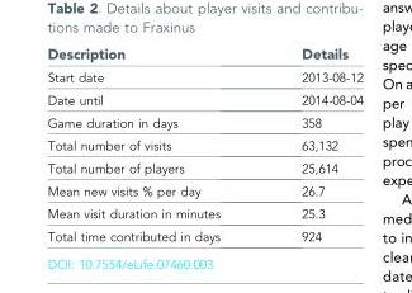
<table><thead><tr><td>Description</td><td>Details</td></tr></thead><tbody><tr><td>Start date</td><td>2013-08-12</td></tr><tr><td>Date until</td><td>2014-08-04</td></tr><tr><td>Game duration in days</td><td>358</td></tr><tr><td>Total number of visits</td><td>63,132</td></tr><tr><td>Total number of players</td><td>25,614</td></tr><tr><td>Mean new visits % per day</td><td>26.7</td></tr><tr><td>Mean visit duration in minutes</td><td>25.3</td></tr><tr><td>Total time contributed in days</td><td>924</td></tr></tbody></table>